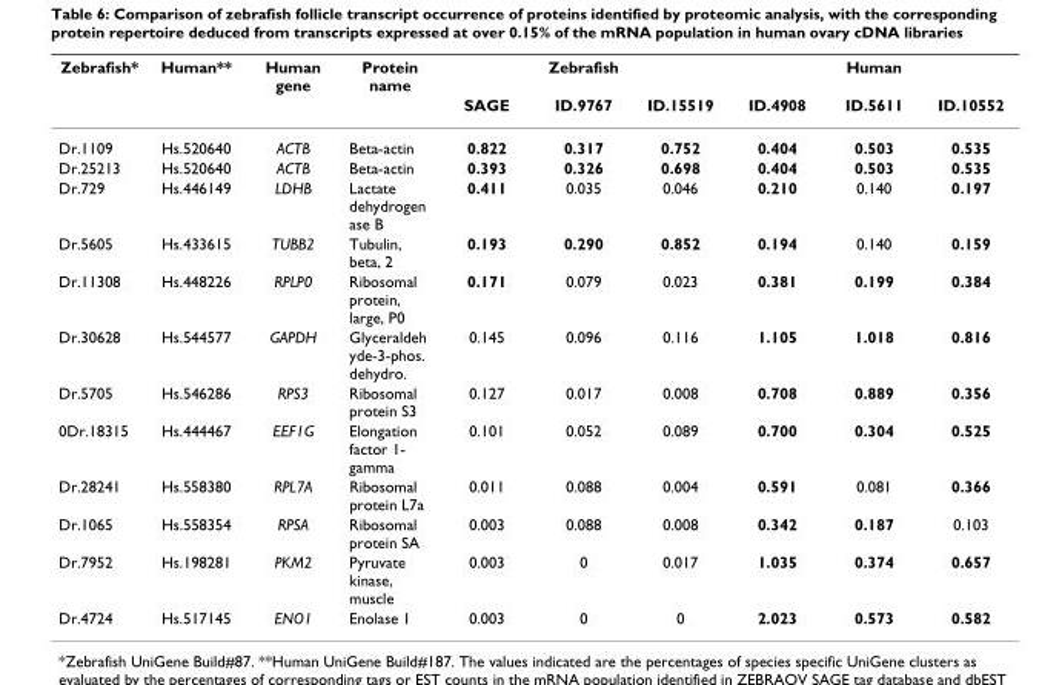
<table><thead><tr><td rowspan="2">Zebrafish*</td><td rowspan="2">Human**</td><td rowspan="2">Human gene</td><td rowspan="2">Protein name</td><td colspan="3">Zebrafish</td><td colspan="3">Human</td></tr><tr><td>SAGE</td><td>ID.9767</td><td>ID.15519</td><td>ID.4908</td><td>ID.5611</td><td>ID.10552</td></tr></thead><tbody><tr><td>Dr.1109</td><td>Hs.520640</td><td>ACTB</td><td>Beta-actin</td><td>0.822</td><td>0.317</td><td>0.752</td><td>0.404</td><td>0.503</td><td>0.535</td></tr><tr><td>Dr.25213</td><td>Hs.520640</td><td>ACTB</td><td>Beta-actin</td><td>0.393</td><td>0.326</td><td>0.698</td><td>0.404</td><td>0.503</td><td>0.535</td></tr><tr><td>Dr.729</td><td>Hs.446149</td><td>LDHB</td><td>Lactate dehydrogen ase B</td><td>0.411</td><td>0.035</td><td>0.046</td><td>0.210</td><td>0.140</td><td>0.197</td></tr><tr><td>Dr.5605</td><td>Hs.433615</td><td>TUBB2</td><td>Tubulin, beta, 2</td><td>0.193</td><td>0.290</td><td>0.852</td><td>0.194</td><td>0.140</td><td>0.159</td></tr><tr><td>Dr.11308</td><td>Hs.448226</td><td>RPLP0</td><td>Ribosomal protein, large, P0</td><td>0.171</td><td>0.079</td><td>0.023</td><td>0.381</td><td>0.199</td><td>0.384</td></tr><tr><td>Dr.30628</td><td>Hs.544577</td><td>GAPDH</td><td>Glyceraldeh yde-3-phos. dehydro.</td><td>0.145</td><td>0.096</td><td>0.116</td><td>1.105</td><td>1.018</td><td>0.816</td></tr><tr><td>Dr.5705</td><td>Hs.546286</td><td>RPS3</td><td>Ribosomal protein S3</td><td>0.127</td><td>0.017</td><td>0.008</td><td>0.708</td><td>0.889</td><td>0.356</td></tr><tr><td>0Dr.18315</td><td>Hs.444467</td><td>EEF1G</td><td>Elongation factor 1- gamma</td><td>0.101</td><td>0.052</td><td>0.089</td><td>0.700</td><td>0.304</td><td>0.525</td></tr><tr><td>Dr.28241</td><td>Hs.558380</td><td>RPL7A</td><td>Ribosomal protein L7a</td><td>0.011</td><td>0.088</td><td>0.004</td><td>0.591</td><td>0.081</td><td>0.366</td></tr><tr><td>Dr.1065</td><td>Hs.558354</td><td>RPSA</td><td>Ribosomal protein SA</td><td>0.003</td><td>0.088</td><td>0.008</td><td>0.342</td><td>0.187</td><td>0.103</td></tr><tr><td>Dr.7952</td><td>Hs.198281</td><td>PKM2</td><td>Pyruvate kinase, muscle</td><td>0.003</td><td>0</td><td>0.017</td><td>1.035</td><td>0.374</td><td>0.657</td></tr><tr><td>Dr.4724</td><td>Hs.517145</td><td>ENO1</td><td>Enolase 1</td><td>0.003</td><td>0</td><td>0</td><td>2.023</td><td>0.573</td><td>0.582</td></tr></tbody></table>